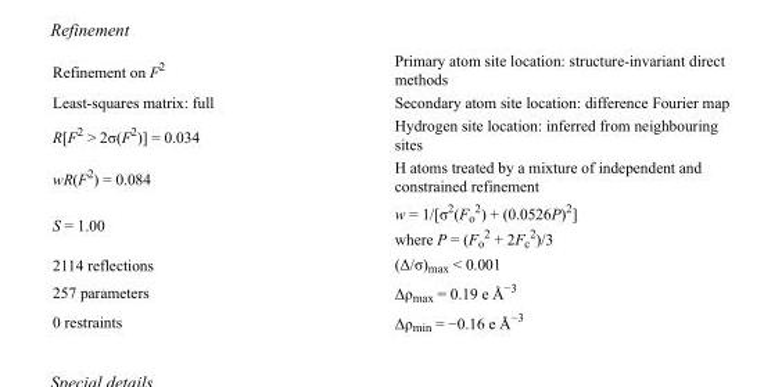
<table><tbody><tr><td>Refinement on F<sup>2</sup></td><td>Primary atom site location: structure-invariant direct methods</td></tr><tr><td>Least-squares matrix: full</td><td>Secondary atom site location: difference Fourier map</td></tr><tr><td>R[F<sup>2</sup> &gt; 2σ(F<sup>2</sup>)] = 0.034</td><td>Hydrogen site location: inferred from neighbouring sites</td></tr><tr><td>wR(F<sup>2</sup>) = 0.084</td><td>H atoms treated by a mixture of independent and constrained refinement</td></tr><tr><td>S = 1.00</td><td>w = 1/[σ<sup>2</sup>(F<sub>o</sub> <sup>2</sup>) + (0.0526P)<sup>2</sup>] where P = (F<sub>o</sub> <sup>2</sup> + 2F<sub>c</sub> <sup>2</sup>)/3</td></tr><tr><td>2114 reflections</td><td>(Δ/σ)<sub>max</sub> &lt; 0.001</td></tr><tr><td>257 parameters</td><td>Δρ<sub>max</sub> = 0.19 e Å<sup>−3</sup></td></tr><tr><td>0 restraints</td><td>Δρ<sub>min</sub> = −0.16 e Å<sup>−3</sup></td></tr></tbody></table>